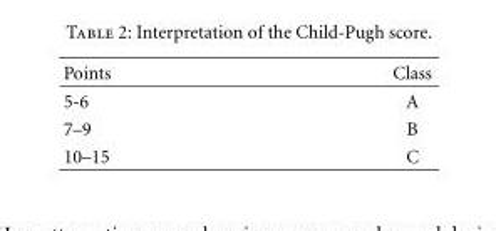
<table><thead><tr><td>Points</td><td>Class</td></tr></thead><tbody><tr><td>5-6</td><td>A</td></tr><tr><td>7–9</td><td>B</td></tr><tr><td>10–15</td><td>C</td></tr></tbody></table>